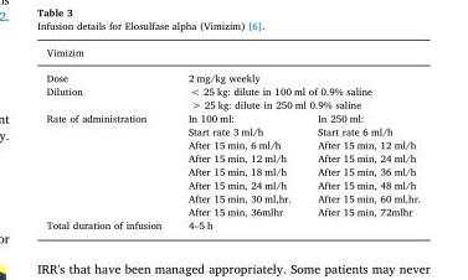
<table><thead><tr><td>Vimizim</td><td></td><td></td></tr></thead><tbody><tr><td>Dose</td><td colspan="2">2 mg/kg weekly</td></tr><tr><td>Dilution</td><td colspan="2">&lt; 25 kg: dilute in 100 ml of 0.9% saline &gt; 25 kg: dilute in 250 ml 0.9% saline</td></tr><tr><td>Rate of administration</td><td>In 100 ml: Start rate 3 ml/h After 15 min, 6 ml/h After 15 min, 12 ml/h After 15 min, 18 ml/h After 15 min, 24 ml/h After 15 min, 30 ml,hr. After 15 min, 36mlhr</td><td>In 250 ml: Start rate 6 ml/h After 15 min, 12 ml/h After 15 min, 24 ml/h After 15 min, 36 ml/h After 15 min, 48 ml/h After 15 min, 60 ml,hr. After 15 min, 72mlhr</td></tr><tr><td>Total duration of infusion</td><td colspan="2">4–5 h</td></tr></tbody></table>